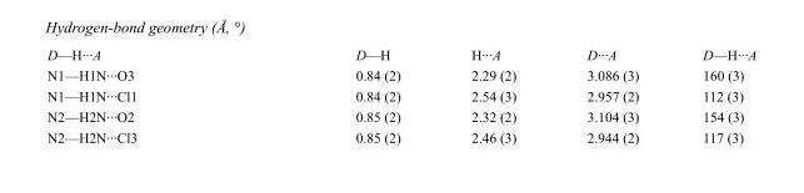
<table><tbody><tr><td>D—H···A</td><td>D—H</td><td>H···A</td><td>D···A</td><td>D—H···A</td></tr><tr><td>N1—H1N···O3</td><td>0.84 (2)</td><td>2.29 (2)</td><td>3.086 (3)</td><td>160 (3)</td></tr><tr><td>N1—H1N···Cl1</td><td>0.84 (2)</td><td>2.54 (3)</td><td>2.957 (2)</td><td>112 (3)</td></tr><tr><td>N2—H2N···O2</td><td>0.85 (2)</td><td>2.32 (2)</td><td>3.104 (3)</td><td>154 (3)</td></tr><tr><td>N2—H2N···Cl3</td><td>0.85 (2)</td><td>2.46 (3)</td><td>2.944 (2)</td><td>117 (3)</td></tr></tbody></table>